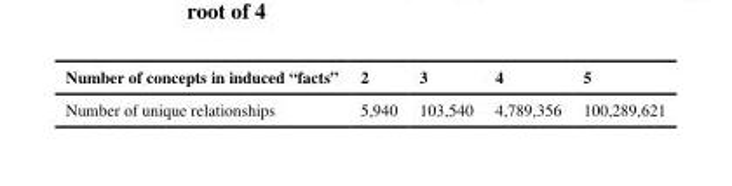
<table><thead><tr><td>Number of concepts in induced “facts”</td><td>2</td><td>3</td><td>4</td><td>5</td></tr></thead><tbody><tr><td>Number of unique relationships</td><td>5,940</td><td>103,540</td><td>4,789,356</td><td>100,289,621</td></tr></tbody></table>